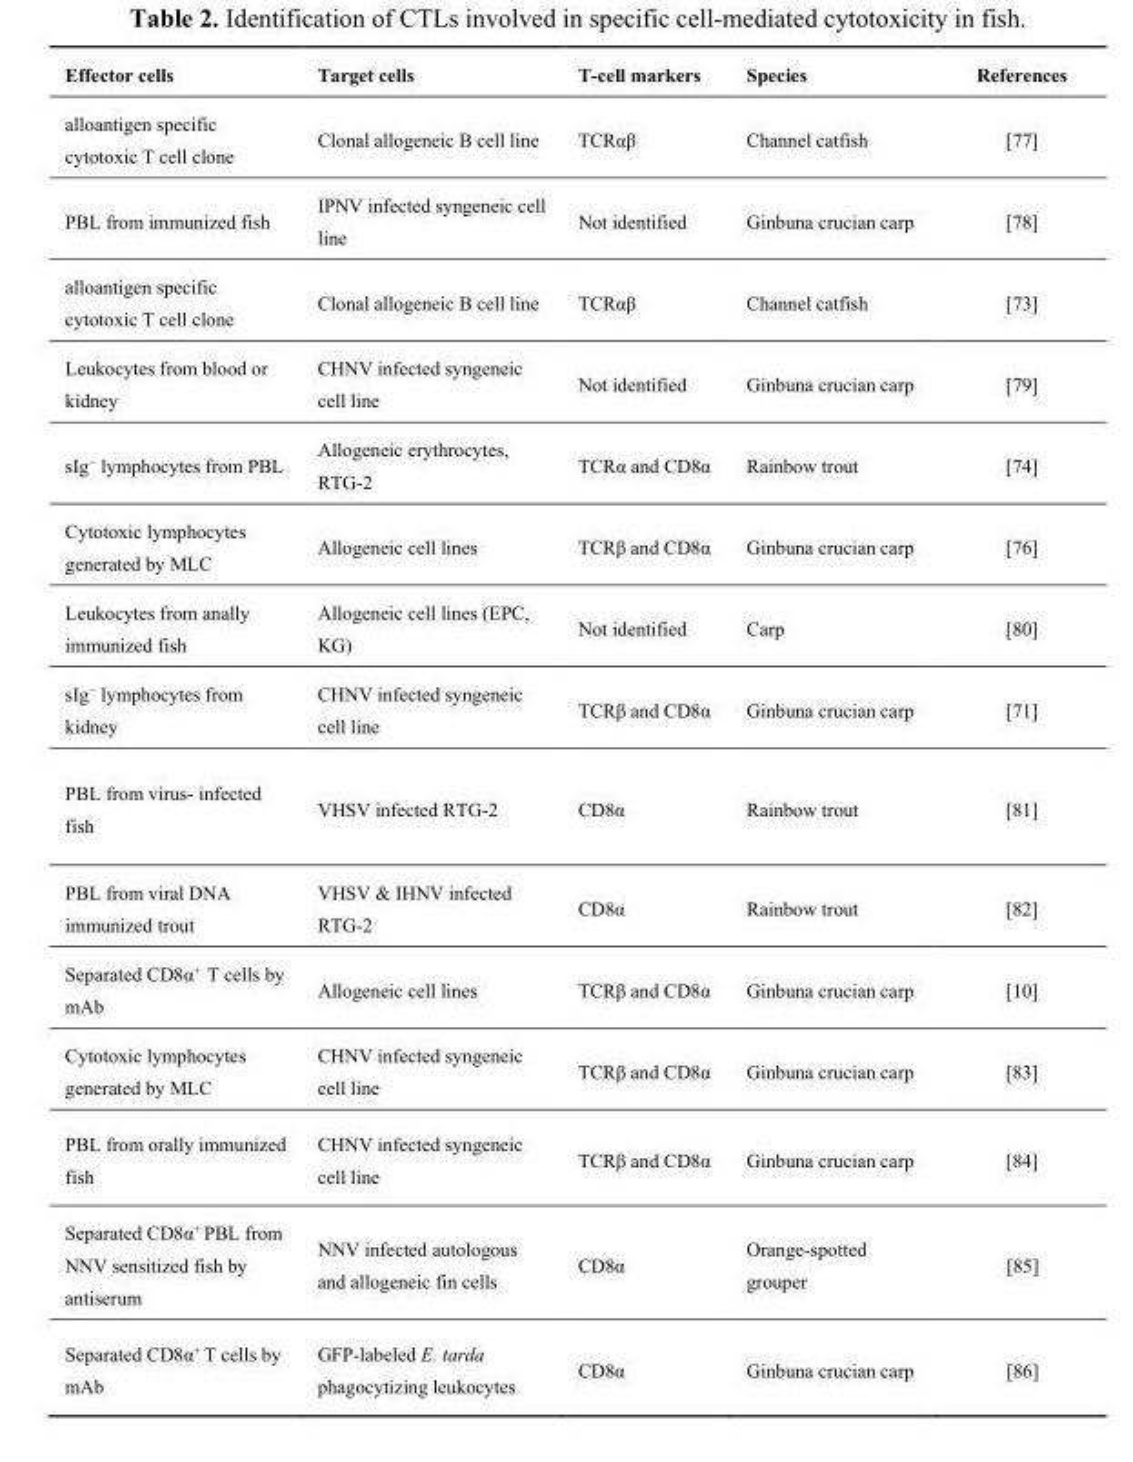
<table><thead><tr><td>Effector cells</td><td>Target cells</td><td>T-cell markers</td><td>Species</td><td>References</td></tr></thead><tbody><tr><td>alloantigen specific cytotoxic T cell clone</td><td>Clonal allogeneic B cell line</td><td>TCRαβ</td><td>Channel catfish</td><td>[77]</td></tr><tr><td>PBL from immunized fish</td><td>IPNV infected syngeneic cell line</td><td>Not identified</td><td>Ginbuna crucian carp</td><td>[78]</td></tr><tr><td>alloantigen specific cytotoxic T cell clone</td><td>Clonal allogeneic B cell line</td><td>TCRαβ</td><td>Channel catfish</td><td>[73]</td></tr><tr><td>Leukocytes from blood or kidney</td><td>CHNV infected syngeneic cell line</td><td>Not identified</td><td>Ginbuna crucian carp</td><td>[79]</td></tr><tr><td>sIg<sup>−</sup> lymphocytes from PBL</td><td>Allogeneic erythrocytes, RTG-2</td><td>TCRα and CD8α</td><td>Rainbow trout</td><td>[74]</td></tr><tr><td>Cytotoxic lymphocytes generated by MLC</td><td>Allogeneic cell lines</td><td>TCRβ and CD8α</td><td>Ginbuna crucian carp</td><td>[76]</td></tr><tr><td>Leukocytes from anally immunized fish</td><td>Allogeneic cell lines (EPC, KG)</td><td>Not identified</td><td>Carp</td><td>[80]</td></tr><tr><td>sIg<sup>−</sup> lymphocytes from kidney</td><td>CHNV infected syngeneic cell line</td><td>TCRβ and CD8α</td><td>Ginbuna crucian carp</td><td>[71]</td></tr><tr><td>PBL from virus- infected fish</td><td>VHSV infected RTG-2</td><td>CD8α</td><td>Rainbow trout</td><td>[81]</td></tr><tr><td>PBL from viral DNA immunized trout</td><td>VHSV &amp; IHNV infected RTG-2</td><td>CD8α</td><td>Rainbow trout</td><td>[82]</td></tr><tr><td>Separated CD8α<sup>+</sup> T cells by mAb</td><td>Allogeneic cell lines</td><td>TCRβ and CD8α</td><td>Ginbuna crucian carp</td><td>[10]</td></tr><tr><td>Cytotoxic lymphocytes generated by MLC</td><td>CHNV infected syngeneic cell line</td><td>TCRβ and CD8α</td><td>Ginbuna crucian carp</td><td>[83]</td></tr><tr><td>PBL from orally immunized fish</td><td>CHNV infected syngeneic cell line</td><td>TCRβ and CD8α</td><td>Ginbuna crucian carp</td><td>[84]</td></tr><tr><td>Separated CD8α<sup>+</sup> PBL from NNV sensitized fish by antiserum</td><td>NNV infected autologous and allogeneic fin cells</td><td>CD8α</td><td>Orange-spotted grouper</td><td>[85]</td></tr><tr><td>Separated CD8α<sup>+</sup> T cells by mAb</td><td>GFP-labeled E. tarda phagocytizing leukocytes</td><td>CD8α</td><td>Ginbuna crucian carp</td><td>[86]</td></tr></tbody></table>